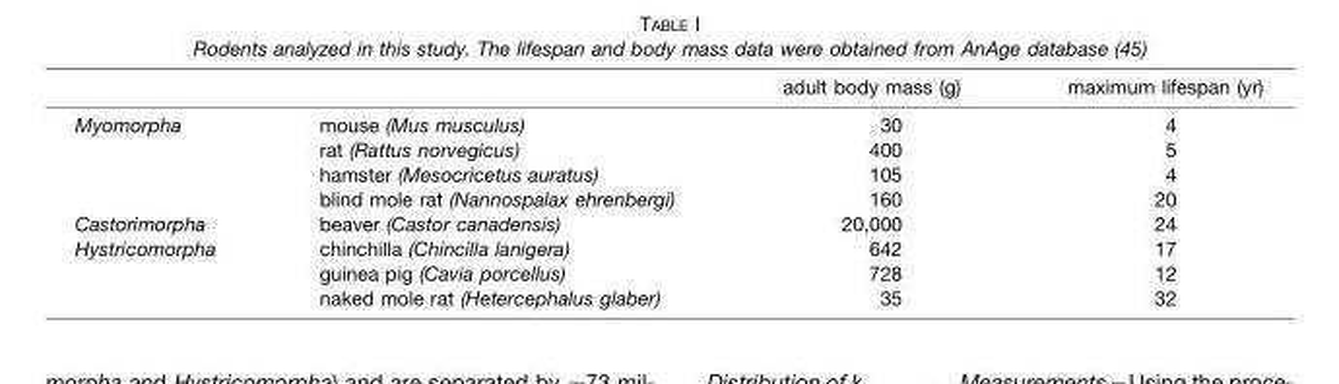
<table><thead><tr><td></td><td></td><td>adult body mass (g)</td><td>maximum lifespan (yr)</td></tr></thead><tbody><tr><td rowspan="4">Myomorpha</td><td>mouse (Mus musculus)</td><td>30</td><td>4</td></tr><tr><td>rat (Rattus norvegicus)</td><td>400</td><td>5</td></tr><tr><td>hamster (Mesocricetus auratus)</td><td>105</td><td>4</td></tr><tr><td>blind mole rat (Nannospalax ehrenbergi)</td><td>160</td><td>20</td></tr><tr><td>Castorimorpha</td><td>beaver (Castor canadensis)</td><td>20,000</td><td>24</td></tr><tr><td rowspan="3">Hystricomorpha</td><td>chinchilla (Chincilla lanigera)</td><td>642</td><td>17</td></tr><tr><td>guinea pig (Cavia porcellus)</td><td>728</td><td>12</td></tr><tr><td>naked mole rat (Hetercephalus glaber)</td><td>35</td><td>32</td></tr></tbody></table>